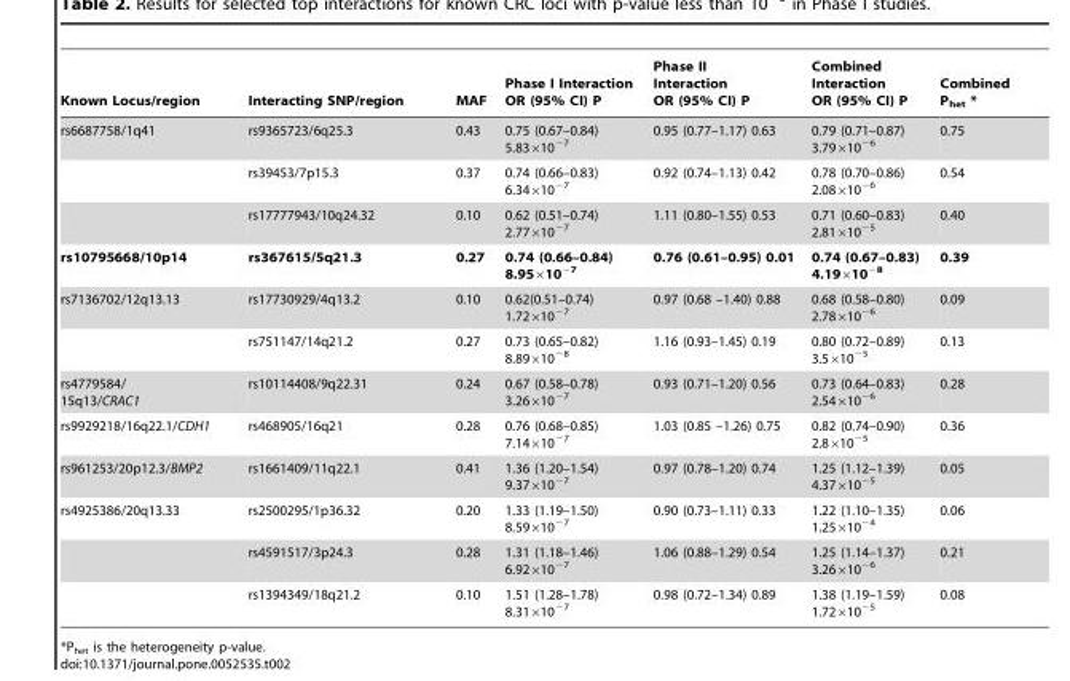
<table><thead><tr><td>Known Locus/region</td><td>Interacting SNP/region</td><td>MAF</td><td>Phase I Interaction OR (95% CI) P</td><td>Phase II Interaction OR (95% CI) P</td><td>Combined Interaction OR (95% CI) P</td><td>Combined P<sub>het</sub> *</td></tr></thead><tbody><tr><td rowspan="3">rs6687758/1q41</td><td>rs9365723/6q25.3</td><td>0.43</td><td>0.75 (0.67–0.84) 5.83×10<sup>−7</sup></td><td>0.95 (0.77–1.17) 0.63</td><td>0.79 (0.71–0.87) 3.79×10<sup>−6</sup></td><td>0.75</td></tr><tr><td>rs39453/7p15.3</td><td>0.37</td><td>0.74 (0.66–0.83) 6.34×10<sup>−7</sup></td><td>0.92 (0.74–1.13) 0.42</td><td>0.78 (0.70–0.86) 2.08×10<sup>−6</sup></td><td>0.54</td></tr><tr><td>rs17777943/10q24.32</td><td>0.10</td><td>0.62 (0.51–0.74) 2.77×10<sup>−7</sup></td><td>1.11 (0.80–1.55) 0.53</td><td>0.71 (0.60–0.83) 2.81×10<sup>−5</sup></td><td>0.40</td></tr><tr><td>rs10795668/10p14</td><td>rs367615/5q21.3</td><td>0.27</td><td>0.74 (0.66–0.84) 8.95×10<sup>−7</sup></td><td>0.76 (0.61–0.95) 0.01</td><td>0.74 (0.67–0.83) 4.19×10<sup>−8</sup></td><td>0.39</td></tr><tr><td rowspan="2">rs7136702/12q13.13</td><td>rs17730929/4q13.2</td><td>0.10</td><td>0.62(0.51–0.74) 1.72×10<sup>−7</sup></td><td>0.97 (0.68 –1.40) 0.88</td><td>0.68 (0.58–0.80) 2.78×10<sup>−6</sup></td><td>0.09</td></tr><tr><td>rs751147/14q21.2</td><td>0.27</td><td>0.73 (0.65–0.82) 8.89×10<sup>−8</sup></td><td>1.16 (0.93–1.45) 0.19</td><td>0.80 (0.72–0.89) 3.5×10<sup>−5</sup></td><td>0.13</td></tr><tr><td>rs4779584/ 15q13/CRAC1</td><td>rs10114408/9q22.31</td><td>0.24</td><td>0.67 (0.58–0.78) 3.26×10<sup>−7</sup></td><td>0.93 (0.71–1.20) 0.56</td><td>0.73 (0.64–0.83) 2.54×10<sup>−6</sup></td><td>0.28</td></tr><tr><td>rs9929218/16q22.1/CDH1</td><td>rs468905/16q21</td><td>0.28</td><td>0.76 (0.68–0.85) 7.14×10<sup>−7</sup></td><td>1.03 (0.85 –1.26) 0.75</td><td>0.82 (0.74–0.90) 2.8×10<sup>−5</sup></td><td>0.36</td></tr><tr><td>rs961253/20p12.3/BMP2</td><td>rs1661409/11q22.1</td><td>0.41</td><td>1.36 (1.20–1.54) 9.37×10<sup>−7</sup></td><td>0.97 (0.78–1.20) 0.74</td><td>1.25 (1.12–1.39) 4.37×10<sup>−5</sup></td><td>0.05</td></tr><tr><td rowspan="3">rs4925386/20q13.33</td><td>rs2500295/1p36.32</td><td>0.20</td><td>1.33 (1.19–1.50) 8.59×10<sup>−7</sup></td><td>0.90 (0.73–1.11) 0.33</td><td>1.22 (1.10–1.35) 1.25×10<sup>−4</sup></td><td>0.06</td></tr><tr><td>rs4591517/3p24.3</td><td>0.28</td><td>1.31 (1.18–1.46) 6.92×10<sup>−7</sup></td><td>1.06 (0.88–1.29) 0.54</td><td>1.25 (1.14–1.37) 3.26×10<sup>−6</sup></td><td>0.21</td></tr><tr><td>rs1394349/18q21.2</td><td>0.10</td><td>1.51 (1.28–1.78) 8.31×10<sup>−7</sup></td><td>0.98 (0.72–1.34) 0.89</td><td>1.38 (1.19–1.59) 1.72×10<sup>−5</sup></td><td>0.08</td></tr></tbody></table>